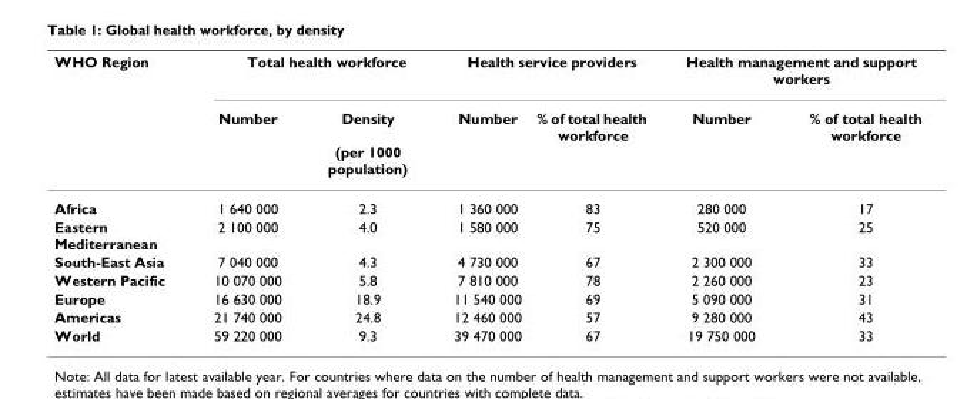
<table><thead><tr><td rowspan="2">WHO Region</td><td colspan="2">Total health workforce</td><td colspan="2">Health service providers</td><td colspan="2">Health management and support workers</td></tr><tr><td>Number</td><td>Density (per 1000 population)</td><td>Number</td><td>% of total health workforce</td><td>Number</td><td>% of total health workforce</td></tr></thead><tbody><tr><td>Africa</td><td>1 640 000</td><td>2.3</td><td>1 360 000</td><td>83</td><td>280 000</td><td>17</td></tr><tr><td>Eastern Mediterranean</td><td>2 100 000</td><td>4.0</td><td>1 580 000</td><td>75</td><td>520 000</td><td>25</td></tr><tr><td>South-East Asia</td><td>7 040 000</td><td>4.3</td><td>4 730 000</td><td>67</td><td>2 300 000</td><td>33</td></tr><tr><td>Western Pacific</td><td>10 070 000</td><td>5.8</td><td>7 810 000</td><td>78</td><td>2 260 000</td><td>23</td></tr><tr><td>Europe</td><td>16 630 000</td><td>18.9</td><td>11 540 000</td><td>69</td><td>5 090 000</td><td>31</td></tr><tr><td>Americas</td><td>21 740 000</td><td>24.8</td><td>12 460 000</td><td>57</td><td>9 280 000</td><td>43</td></tr><tr><td>World</td><td>59 220 000</td><td>9.3</td><td>39 470 000</td><td>67</td><td>19 750 000</td><td>33</td></tr></tbody></table>